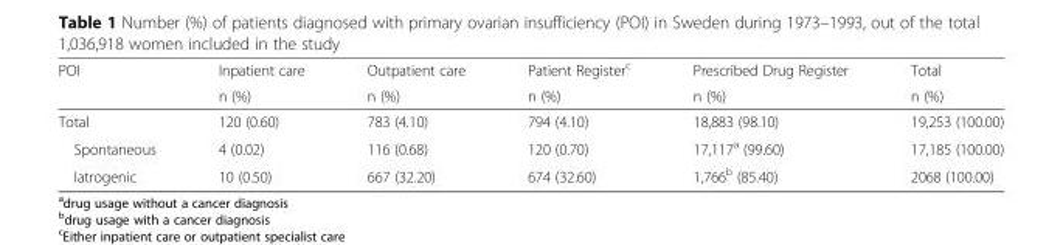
<table><thead><tr><td rowspan="2">POI</td><td rowspan="2">Inpatient care n (%)</td><td rowspan="2">Outpatient care n (%)</td><td rowspan="2">Patient Register<sup>c</sup> n (%)</td><td rowspan="2">Prescribed Drug Register n (%)</td><td rowspan="2">Total n (%)</td></tr><tr></tr></thead><tbody><tr><td>Total</td><td>120 (0.60)</td><td>783 (4.10)</td><td>794 (4.10)</td><td>18,883 (98.10)</td><td>19,253 (100.00)</td></tr><tr><td>Spontaneous</td><td>4 (0.02)</td><td>116 (0.68)</td><td>120 (0.70)</td><td>17,117<sup>a</sup> (99.60)</td><td>17,185 (100.00)</td></tr><tr><td>Iatrogenic</td><td>10 (0.50)</td><td>667 (32.20)</td><td>674 (32.60)</td><td>1,766<sup>b</sup> (85.40)</td><td>2068 (100.00)</td></tr></tbody></table>